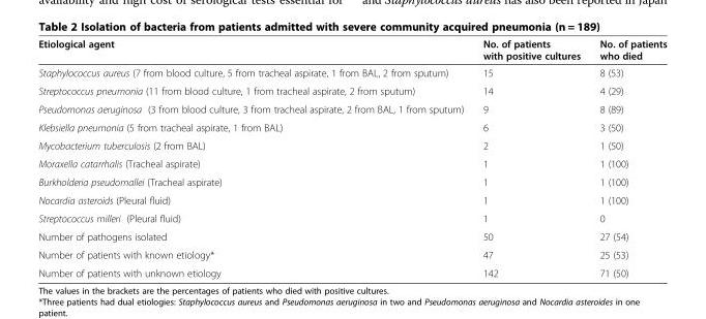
<table><thead><tr><td>Etiological agent</td><td>No. of patients with positive cultures</td><td>No. of patients who died</td></tr></thead><tbody><tr><td>Staphylococcus aureus (7 from blood culture, 5 from tracheal aspirate, 1 from BAL, 2 from sputum)</td><td>15</td><td>8 (53)</td></tr><tr><td>Streptococcus pneumonia (11 from blood culture, 1 from tracheal aspirate, 2 from sputum)</td><td>14</td><td>4 (29)</td></tr><tr><td>Pseudomonas aeruginosa (3 from blood culture, 3 from tracheal aspirate, 2 from BAL, 1 from sputum)</td><td>9</td><td>8 (89)</td></tr><tr><td>Klebsiella pneumonia (5 from tracheal aspirate, 1 from BAL)</td><td>6</td><td>3 (50)</td></tr><tr><td>Mycobacterium tuberculosis (2 from BAL)</td><td>2</td><td>1 (50)</td></tr><tr><td>Moraxella catarrhalis (Tracheal aspirate)</td><td>1</td><td>1 (100)</td></tr><tr><td>Burkholderia pseudomallei (Tracheal aspirate)</td><td>1</td><td>1 (100)</td></tr><tr><td>Nocardia asteroids (Pleural fluid)</td><td>1</td><td>1 (100)</td></tr><tr><td>Streptococcus milleri (Pleural fluid)</td><td>1</td><td>0</td></tr><tr><td>Number of pathogens isolated</td><td>50</td><td>27 (54)</td></tr><tr><td>Number of patients with known etiology*</td><td>47</td><td>25 (53)</td></tr><tr><td>Number of patients with unknown etiology</td><td>142</td><td>71 (50)</td></tr></tbody></table>